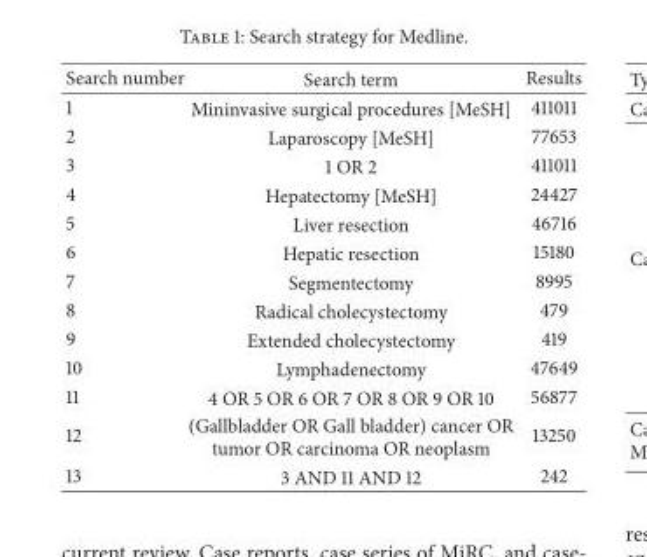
<table><thead><tr><td>Search number</td><td>Search term</td><td>Results</td></tr></thead><tbody><tr><td>1</td><td>Mininvasive surgical procedures [MeSH]</td><td>411011</td></tr><tr><td>2</td><td>Laparoscopy [MeSH]</td><td>77653</td></tr><tr><td>3</td><td>1 OR 2</td><td>411011</td></tr><tr><td>4</td><td>Hepatectomy [MeSH]</td><td>24427</td></tr><tr><td>5</td><td>Liver resection</td><td>46716</td></tr><tr><td>6</td><td>Hepatic resection</td><td>15180</td></tr><tr><td>7</td><td>Segmentectomy</td><td>8995</td></tr><tr><td>8</td><td>Radical cholecystectomy</td><td>479</td></tr><tr><td>9</td><td>Extended cholecystectomy</td><td>419</td></tr><tr><td>10</td><td>Lymphadenectomy</td><td>47649</td></tr><tr><td>11</td><td>4 OR 5 OR 6 OR 7 OR 8 OR 9 OR 10</td><td>56877</td></tr><tr><td>12</td><td>(Gallbladder OR Gall bladder) cancer OR tumor OR carcinoma OR neoplasm</td><td>13250</td></tr><tr><td>13</td><td>3 AND 11 AND 12</td><td>242</td></tr></tbody></table>